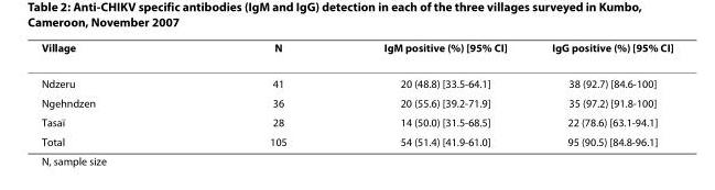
<table><thead><tr><td>Village</td><td>N</td><td>IgM positive (%) [95% CI]</td><td>IgG positive (%) [95% CI]</td></tr></thead><tbody><tr><td>Ndzeru</td><td>41</td><td>20 (48.8) [33.5-64.1]</td><td>38 (92.7) [84.6-100]</td></tr><tr><td>Ngehndzen</td><td>36</td><td>20 (55.6) [39.2-71.9]</td><td>35 (97.2) [91.8-100]</td></tr><tr><td>Tasaï</td><td>28</td><td>14 (50.0) [31.5-68.5]</td><td>22 (78.6) [63.1-94.1]</td></tr><tr><td>Total</td><td>105</td><td>54 (51.4) [41.9-61.0]</td><td>95 (90.5) [84.8-96.1]</td></tr></tbody></table>